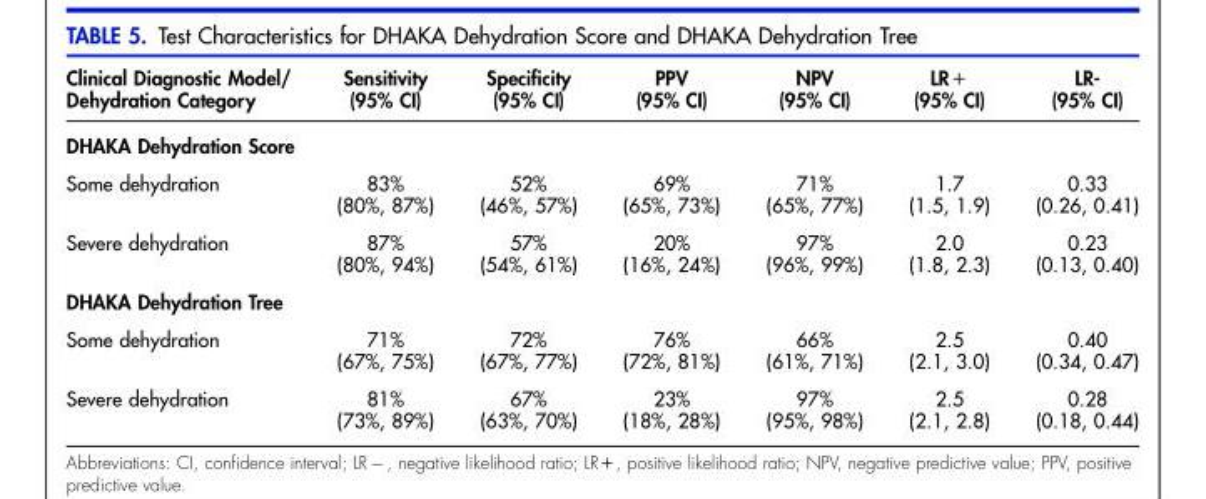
<table><thead><tr><td>Clinical Diagnostic Model/ Dehydration Category</td><td>Sensitivity (95% CI)</td><td>Specificity (95% CI)</td><td>PPV (95% CI)</td><td>NPV (95% CI)</td><td>LR+ (95% CI)</td><td>LR- (95% CI)</td></tr></thead><tbody><tr><td colspan="7">DHAKA Dehydration Score</td></tr><tr><td>Some dehydration</td><td>83% (80%, 87%)</td><td>52% (46%, 57%)</td><td>69% (65%, 73%)</td><td>71% (65%, 77%)</td><td>1.7 (1.5, 1.9)</td><td>0.33 (0.26, 0.41)</td></tr><tr><td>Severe dehydration</td><td>87% (80%, 94%)</td><td>57% (54%, 61%)</td><td>20% (16%, 24%)</td><td>97% (96%, 99%)</td><td>2.0 (1.8, 2.3)</td><td>0.23 (0.13, 0.40)</td></tr><tr><td colspan="7">DHAKA Dehydration Tree</td></tr><tr><td>Some dehydration</td><td>71% (67%, 75%)</td><td>72% (67%, 77%)</td><td>76% (72%, 81%)</td><td>66% (61%, 71%)</td><td>2.5 (2.1, 3.0)</td><td>0.40 (0.34, 0.47)</td></tr><tr><td>Severe dehydration</td><td>81% (73%, 89%)</td><td>67% (63%, 70%)</td><td>23% (18%, 28%)</td><td>97% (95%, 98%)</td><td>2.5 (2.1, 2.8)</td><td>0.28 (0.18, 0.44)</td></tr></tbody></table>